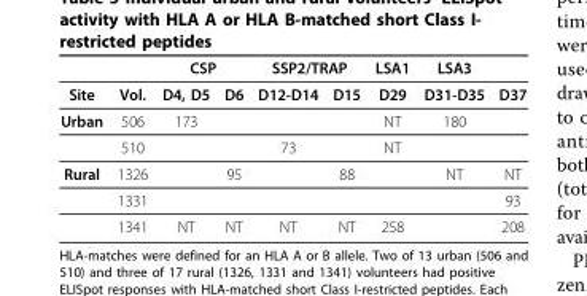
<table><thead><tr><td rowspan="2">Site</td><td rowspan="2">Vol.</td><td colspan="2">CSP</td><td colspan="2">SSP2/TRAP</td><td rowspan="2">LSA1 D29</td><td rowspan="2">LSA3 D31-D35</td><td rowspan="2">D37</td></tr><tr><td>D4, D5</td><td>D6</td><td>D12-D14</td><td>D15</td></tr></thead><tbody><tr><td rowspan="2">Urban</td><td>506</td><td>173</td><td></td><td></td><td></td><td>NT</td><td>180</td><td></td></tr><tr><td>510</td><td></td><td></td><td>73</td><td></td><td>NT</td><td></td><td></td></tr><tr><td rowspan="3">Rural</td><td>1326</td><td></td><td>95</td><td></td><td>88</td><td></td><td>NT</td><td>NT</td></tr><tr><td>1331</td><td></td><td></td><td></td><td></td><td></td><td></td><td>93</td></tr><tr><td>1341</td><td>NT</td><td>NT</td><td>NT</td><td>NT</td><td>258</td><td></td><td>208</td></tr></tbody></table>